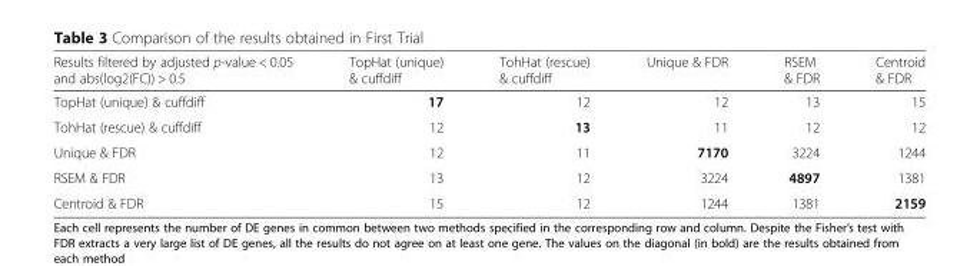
<table><thead><tr><td>Results filtered by adjusted p-value &lt; 0.05 and abs(log2(FC)) &gt; 0.5</td><td>TopHat (unique) &amp; cuffdiff</td><td>TohHat (rescue) &amp; cuffdiff</td><td>Unique &amp; FDR</td><td>RSEM &amp; FDR</td><td>Centroid &amp; FDR</td></tr></thead><tbody><tr><td>TopHat (unique) &amp; cuffdiff</td><td>17</td><td>12</td><td>12</td><td>13</td><td>15</td></tr><tr><td>TohHat (rescue) &amp; cuffdiff</td><td>12</td><td>13</td><td>11</td><td>12</td><td>12</td></tr><tr><td>Unique &amp; FDR</td><td>12</td><td>11</td><td>7170</td><td>3224</td><td>1244</td></tr><tr><td>RSEM &amp; FDR</td><td>13</td><td>12</td><td>3224</td><td>4897</td><td>1381</td></tr><tr><td>Centroid &amp; FDR</td><td>15</td><td>12</td><td>1244</td><td>1381</td><td>2159</td></tr></tbody></table>